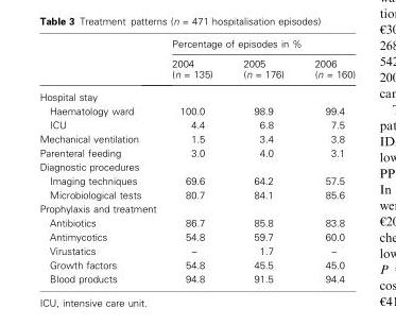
<table><thead><tr><td rowspan="2"></td><td colspan="3">Percentage of episodes in %</td></tr><tr><td>2004 (n = 135)</td><td>2005 (n = 176)</td><td>2006 (n = 160)</td></tr></thead><tbody><tr><td colspan="4">Hospital stay</td></tr><tr><td>Haematology ward</td><td>100.0</td><td>98.9</td><td>99.4</td></tr><tr><td>ICU</td><td>4.4</td><td>6.8</td><td>7.5</td></tr><tr><td>Mechanical ventilation</td><td>1.5</td><td>3.4</td><td>3.8</td></tr><tr><td>Parenteral feeding</td><td>3.0</td><td>4.0</td><td>3.1</td></tr><tr><td colspan="4">Diagnostic procedures</td></tr><tr><td>Imaging techniques</td><td>69.6</td><td>64.2</td><td>57.5</td></tr><tr><td>Microbiological tests</td><td>80.7</td><td>84.1</td><td>85.6</td></tr><tr><td colspan="4">Prophylaxis and treatment</td></tr><tr><td>Antibiotics</td><td>86.7</td><td>85.8</td><td>83.8</td></tr><tr><td>Antimycotics</td><td>54.8</td><td>59.7</td><td>60.0</td></tr><tr><td>Virustatics</td><td>–</td><td>1.7</td><td>–</td></tr><tr><td>Growth factors</td><td>54.8</td><td>45.5</td><td>45.0</td></tr><tr><td>Blood products</td><td>94.8</td><td>91.5</td><td>94.4</td></tr></tbody></table>